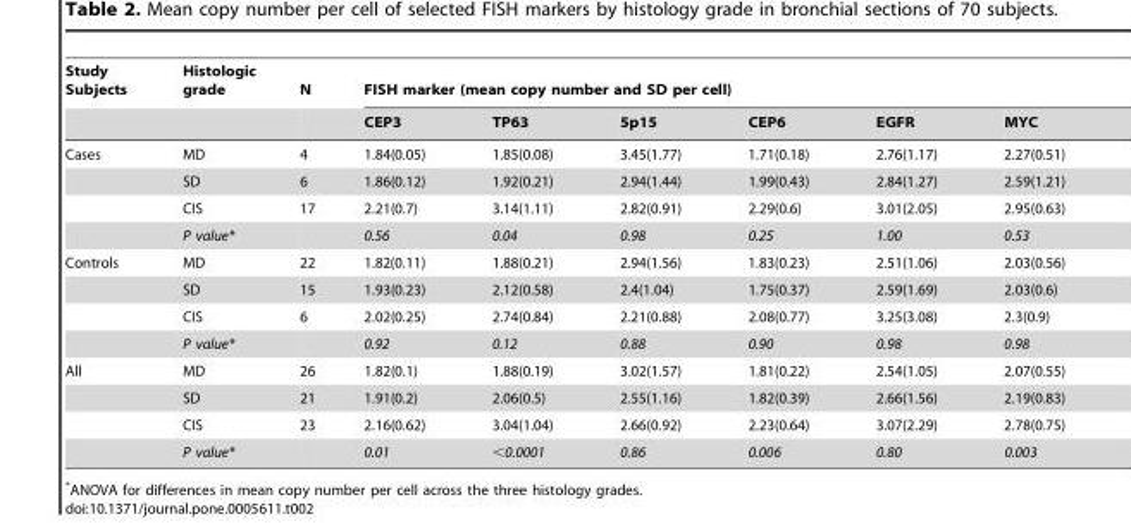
<table><thead><tr><td rowspan="2">Study Subjects</td><td rowspan="2">Histologic grade</td><td rowspan="2">N</td><td colspan="6">FISH marker (mean copy number and SD per cell)</td></tr><tr><td>CEP3</td><td>TP63</td><td>5p15</td><td>CEP6</td><td>EGFR</td><td>MYC</td></tr></thead><tbody><tr><td rowspan="4">Cases</td><td>MD</td><td>4</td><td>1.84(0.05)</td><td>1.85(0.08)</td><td>3.45(1.77)</td><td>1.71(0.18)</td><td>2.76(1.17)</td><td>2.27(0.51)</td></tr><tr><td>SD</td><td>6</td><td>1.86(0.12)</td><td>1.92(0.21)</td><td>2.94(1.44)</td><td>1.99(0.43)</td><td>2.84(1.27)</td><td>2.59(1.21)</td></tr><tr><td>CIS</td><td>17</td><td>2.21(0.7)</td><td>3.14(1.11)</td><td>2.82(0.91)</td><td>2.29(0.6)</td><td>3.01(2.05)</td><td>2.95(0.63)</td></tr><tr><td>P value*</td><td></td><td>0.56</td><td>0.04</td><td>0.98</td><td>0.25</td><td>1.00</td><td>0.53</td></tr><tr><td rowspan="4">Controls</td><td>MD</td><td>22</td><td>1.82(0.11)</td><td>1.88(0.21)</td><td>2.94(1.56)</td><td>1.83(0.23)</td><td>2.51(1.06)</td><td>2.03(0.56)</td></tr><tr><td>SD</td><td>15</td><td>1.93(0.23)</td><td>2.12(0.58)</td><td>2.4(1.04)</td><td>1.75(0.37)</td><td>2.59(1.69)</td><td>2.03(0.6)</td></tr><tr><td>CIS</td><td>6</td><td>2.02(0.25)</td><td>2.74(0.84)</td><td>2.21(0.88)</td><td>2.08(0.77)</td><td>3.25(3.08)</td><td>2.3(0.9)</td></tr><tr><td>P value*</td><td></td><td>0.92</td><td>0.12</td><td>0.88</td><td>0.90</td><td>0.98</td><td>0.98</td></tr><tr><td rowspan="4">All</td><td>MD</td><td>26</td><td>1.82(0.1)</td><td>1.88(0.19)</td><td>3.02(1.57)</td><td>1.81(0.22)</td><td>2.54(1.05)</td><td>2.07(0.55)</td></tr><tr><td>SD</td><td>21</td><td>1.91(0.2)</td><td>2.06(0.5)</td><td>2.55(1.16)</td><td>1.82(0.39)</td><td>2.66(1.56)</td><td>2.19(0.83)</td></tr><tr><td>CIS</td><td>23</td><td>2.16(0.62)</td><td>3.04(1.04)</td><td>2.66(0.92)</td><td>2.23(0.64)</td><td>3.07(2.29)</td><td>2.78(0.75)</td></tr><tr><td>P value*</td><td></td><td>0.01</td><td>&lt;0.0001</td><td>0.86</td><td>0.006</td><td>0.80</td><td>0.003</td></tr></tbody></table>